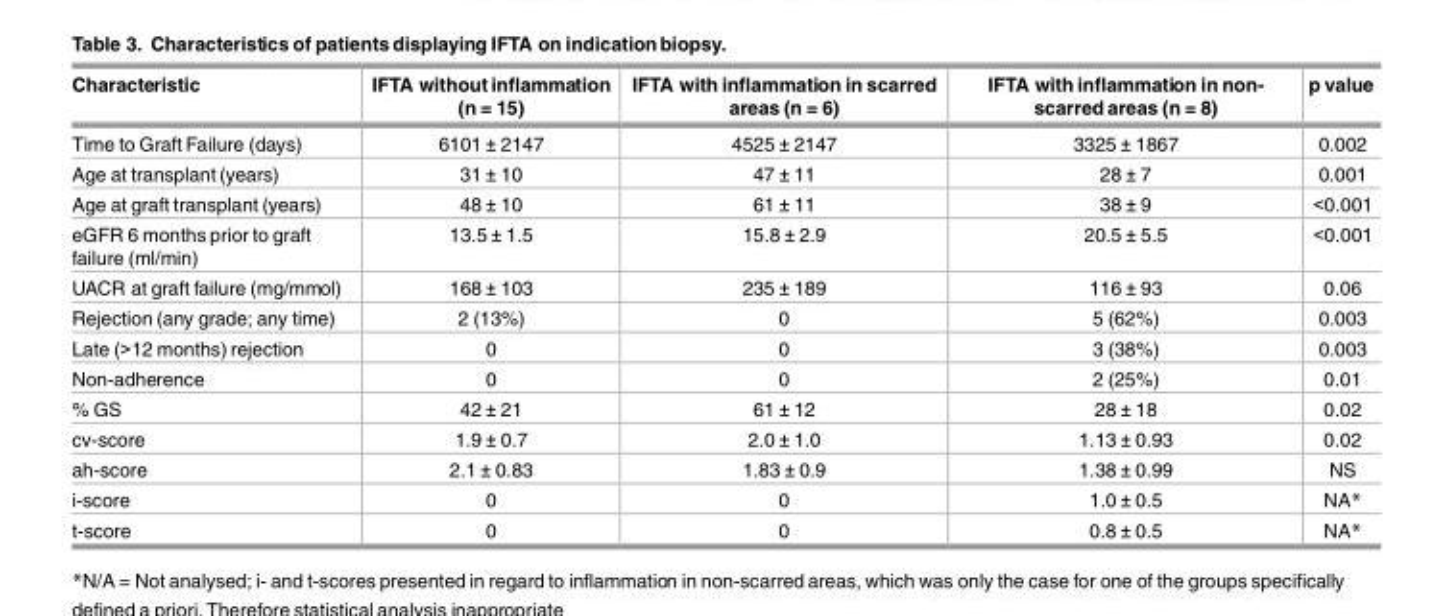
<table><thead><tr><td>Characteristic</td><td>IFTA without inflammation (n = 15)</td><td>IFTA with inflammation in scarred areas (n = 6)</td><td>IFTA with inflammation in non- scarred areas (n = 8)</td><td>p value</td></tr></thead><tbody><tr><td>Time to Graft Failure (days)</td><td>6101 ± 2147</td><td>4525 ± 2147</td><td>3325 ± 1867</td><td>0.002</td></tr><tr><td>Age at transplant (years)</td><td>31 ± 10</td><td>47 ± 11</td><td>28 ± 7</td><td>0.001</td></tr><tr><td>Age at graft transplant (years)</td><td>48 ± 10</td><td>61 ± 11</td><td>38 ± 9</td><td>&lt;0.001</td></tr><tr><td>eGFR 6 months prior to graft failure (ml/min)</td><td>13.5 ± 1.5</td><td>15.8 ± 2.9</td><td>20.5 ± 5.5</td><td>&lt;0.001</td></tr><tr><td>UACR at graft failure (mg/mmol)</td><td>168 ± 103</td><td>235 ± 189</td><td>116 ± 93</td><td>0.06</td></tr><tr><td>Rejection (any grade; any time)</td><td>2 (13%)</td><td>0</td><td>5 (62%)</td><td>0.003</td></tr><tr><td>Late (&gt;12 months) rejection</td><td>0</td><td>0</td><td>3 (38%)</td><td>0.003</td></tr><tr><td>Non-adherence</td><td>0</td><td>0</td><td>2 (25%)</td><td>0.01</td></tr><tr><td>% GS</td><td>42 ± 21</td><td>61 ± 12</td><td>28 ± 18</td><td>0.02</td></tr><tr><td>cv-score</td><td>1.9 ± 0.7</td><td>2.0 ± 1.0</td><td>1.13 ± 0.93</td><td>0.02</td></tr><tr><td>ah-score</td><td>2.1 ± 0.83</td><td>1.83 ± 0.9</td><td>1.38 ± 0.99</td><td>NS</td></tr><tr><td>i-score</td><td>0</td><td>0</td><td>1.0 ± 0.5</td><td>NA*</td></tr><tr><td>t-score</td><td>0</td><td>0</td><td>0.8 ± 0.5</td><td>NA*</td></tr></tbody></table>